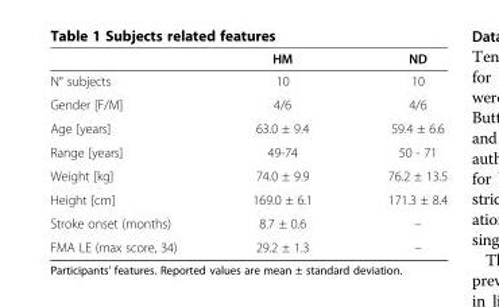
<table><thead><tr><td></td><td>HM</td><td>ND</td></tr></thead><tbody><tr><td>N° subjects</td><td>10</td><td>10</td></tr><tr><td>Gender [F/M]</td><td>4/6</td><td>4/6</td></tr><tr><td>Age [years]</td><td>63.0 ± 9.4</td><td>59.4 ± 6.6</td></tr><tr><td>Range [years]</td><td>49-74</td><td>50 - 71</td></tr><tr><td>Weight [kg]</td><td>74.0 ± 9.9</td><td>76.2 ± 13.5</td></tr><tr><td>Height [cm]</td><td>169.0 ± 6.1</td><td>171.3 ± 8.4</td></tr><tr><td>Stroke onset (months)</td><td>8.7 ± 0.6</td><td>–</td></tr><tr><td>FMA LE (max score, 34)</td><td>29.2 ± 1.3</td><td>–</td></tr></tbody></table>